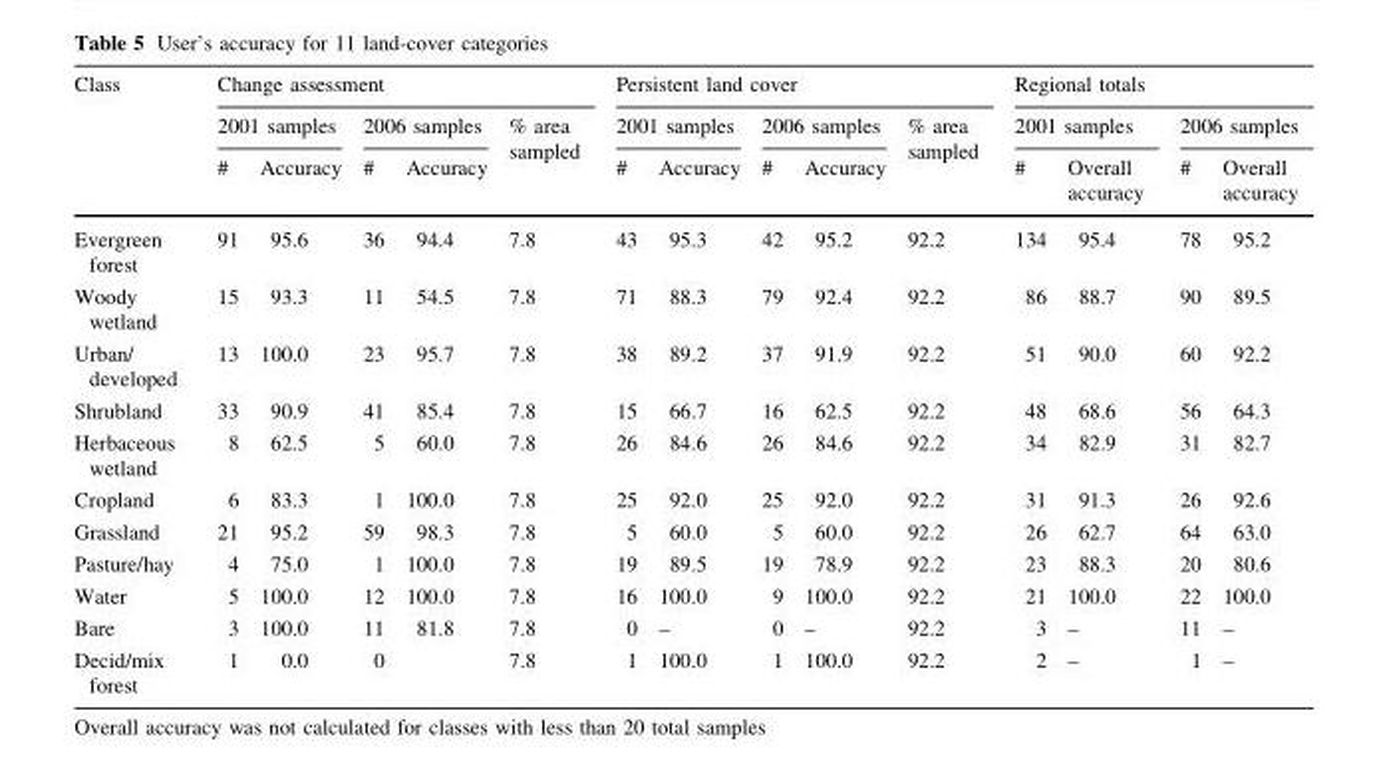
<table><thead><tr><td rowspan="3">Class</td><td colspan="5">Change assessment</td><td colspan="5">Persistent land cover</td><td colspan="4">Regional totals</td></tr><tr><td colspan="2">2001 samples</td><td colspan="2">2006 samples</td><td rowspan="2">% area sampled</td><td colspan="2">2001 samples</td><td colspan="2">2006 samples</td><td rowspan="2">% area sampled</td><td colspan="2">2001 samples</td><td colspan="2">2006 samples</td></tr><tr><td>#</td><td>Accuracy</td><td>#</td><td>Accuracy</td><td>#</td><td>Accuracy</td><td>#</td><td>Accuracy</td><td>#</td><td>Overall accuracy</td><td>#</td><td>Overall accuracy</td></tr></thead><tbody><tr><td>Evergreen forest</td><td>91</td><td>95.6</td><td>36</td><td>94.4</td><td>7.8</td><td>43</td><td>95.3</td><td>42</td><td>95.2</td><td>92.2</td><td>134</td><td>95.4</td><td>78</td><td>95.2</td></tr><tr><td>Woody wetland</td><td>15</td><td>93.3</td><td>11</td><td>54.5</td><td>7.8</td><td>71</td><td>88.3</td><td>79</td><td>92.4</td><td>92.2</td><td>86</td><td>88.7</td><td>90</td><td>89.5</td></tr><tr><td>Urban/ developed</td><td>13</td><td>100.0</td><td>23</td><td>95.7</td><td>7.8</td><td>38</td><td>89.2</td><td>37</td><td>91.9</td><td>92.2</td><td>51</td><td>90.0</td><td>60</td><td>92.2</td></tr><tr><td>Shrubland</td><td>33</td><td>90.9</td><td>41</td><td>85.4</td><td>7.8</td><td>15</td><td>66.7</td><td>16</td><td>62.5</td><td>92.2</td><td>48</td><td>68.6</td><td>56</td><td>64.3</td></tr><tr><td>Herbaceous wetland</td><td>8</td><td>62.5</td><td>5</td><td>60.0</td><td>7.8</td><td>26</td><td>84.6</td><td>26</td><td>84.6</td><td>92.2</td><td>34</td><td>82.9</td><td>31</td><td>82.7</td></tr><tr><td>Cropland</td><td>6</td><td>83.3</td><td>1</td><td>100.0</td><td>7.8</td><td>25</td><td>92.0</td><td>25</td><td>92.0</td><td>92.2</td><td>31</td><td>91.3</td><td>26</td><td>92.6</td></tr><tr><td>Grassland</td><td>21</td><td>95.2</td><td>59</td><td>98.3</td><td>7.8</td><td>5</td><td>60.0</td><td>5</td><td>60.0</td><td>92.2</td><td>26</td><td>62.7</td><td>64</td><td>63.0</td></tr><tr><td>Pasture/hay</td><td>4</td><td>75.0</td><td>1</td><td>100.0</td><td>7.8</td><td>19</td><td>89.5</td><td>19</td><td>78.9</td><td>92.2</td><td>23</td><td>88.3</td><td>20</td><td>80.6</td></tr><tr><td>Water</td><td>5</td><td>100.0</td><td>12</td><td>100.0</td><td>7.8</td><td>16</td><td>100.0</td><td>9</td><td>100.0</td><td>92.2</td><td>21</td><td>100.0</td><td>22</td><td>100.0</td></tr><tr><td>Bare</td><td>3</td><td>100.0</td><td>11</td><td>81.8</td><td>7.8</td><td>0</td><td>–</td><td>0</td><td>–</td><td>92.2</td><td>3</td><td>–</td><td>11</td><td>–</td></tr><tr><td>Decid/mix forest</td><td>1</td><td>0.0</td><td>0</td><td></td><td>7.8</td><td>1</td><td>100.0</td><td>1</td><td>100.0</td><td>92.2</td><td>2</td><td>–</td><td>1</td><td>–</td></tr></tbody></table>